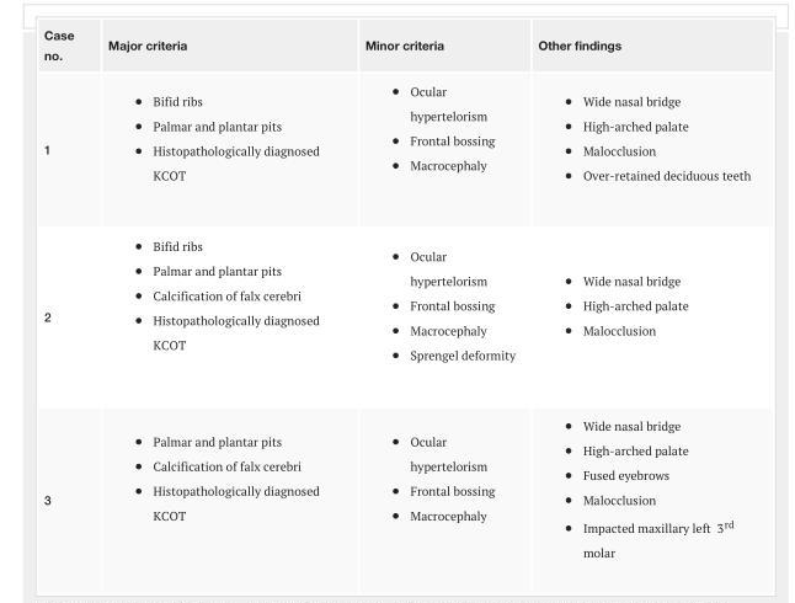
<table><tbody><tr><td>no.</td><td>Major criteria</td><td>Minor criteria</td><td>Other findings</td></tr><tr><td>1</td><td>Bifid ribs Palmar and plantar pits Histopathologically diagnosed KCOT</td><td>Ocular hypertelorism Frontal bossing Macrocephaly</td><td>Wide nasal bridge High-arched palate Malocclusion Over-retained deciduous teeth</td></tr><tr><td>2</td><td>Bifid ribs Palmar and plantar pits Calcification of falx cerebri Histopathologically diagnosed KCOT</td><td>Ocular hypertelorism Frontal bossing Macrocephaly Sprengel deformity</td><td>Wide nasal bridge High-arched palate Malocclusion</td></tr><tr><td>3</td><td>Palmar and plantar pits Calcification of falx cerebri Histopathologically diagnosed KCOT</td><td>Ocular hypertelorism Frontal bossing Macrocephaly</td><td>Wide nasal bridge High-arched palate Fused eyebrows Malocclusion Impacted maxillary left 3<sup>rd</sup> molar</td></tr></tbody></table>